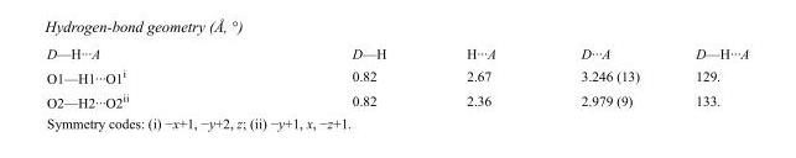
<table><tbody><tr><td>D—H···A</td><td>D—H</td><td>H···A</td><td>D···A</td><td>D—H···A</td></tr><tr><td>O1—H1···O1<sup>i</sup></td><td>0.82</td><td>2.67</td><td>3.246 (13)</td><td>129.</td></tr><tr><td>O2—H2···O2<sup>ii</sup></td><td>0.82</td><td>2.36</td><td>2.979 (9)</td><td>133.</td></tr></tbody></table>